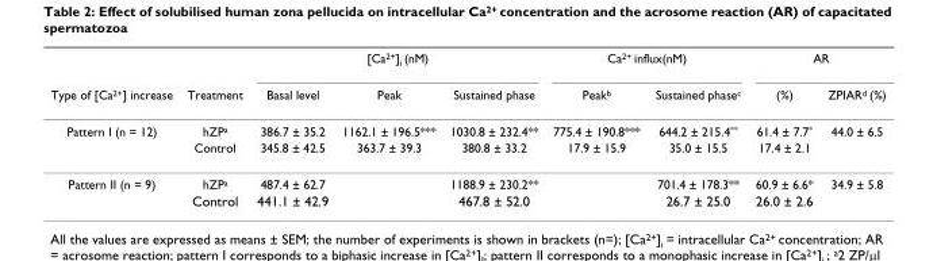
<table><thead><tr><td rowspan="2">Type of [Ca<sup>2+</sup>] increase</td><td rowspan="2">Treatment</td><td colspan="3">[Ca<sup>2+</sup>]<sub>i</sub> (nM)</td><td colspan="2">Ca<sup>2+</sup> influx(nM)</td><td colspan="2">AR</td></tr><tr><td>Basal level</td><td>Peak</td><td>Sustained phase</td><td>Peak<sup>b</sup></td><td>Sustained phase<sup>c</sup></td><td>(%)</td><td>ZPIAR<sup>d</sup> (%)</td></tr></thead><tbody><tr><td rowspan="2">Pattern I (n = 12)</td><td>hZP<sup>a</sup></td><td>386.7 ± 35.2</td><td>1162.1 ± 196.5***</td><td>1030.8 ± 232.4**</td><td>775.4 ± 190.8***</td><td>644.2 ± 215.4**</td><td>61.4 ± 7.7*</td><td>44.0 ± 6.5</td></tr><tr><td>Control</td><td>345.8 ± 42.5</td><td>363.7 ± 39.3</td><td>380.8 ± 33.2</td><td>17.9 ± 15.9</td><td>35.0 ± 15.5</td><td>17.4 ± 2.1</td><td></td></tr><tr><td rowspan="2">Pattern II (n = 9)</td><td>hZP<sup>a</sup></td><td>487.4 ± 62.7</td><td></td><td>1188.9 ± 230.2**</td><td></td><td>701.4 ± 178.3**</td><td>60.9 ± 6.6*</td><td>34.9 ± 5.8</td></tr><tr><td>Control</td><td>441.1 ± 42.9</td><td></td><td>467.8 ± 52.0</td><td></td><td>26.7 ± 25.0</td><td>26.0 ± 2.6</td><td></td></tr></tbody></table>